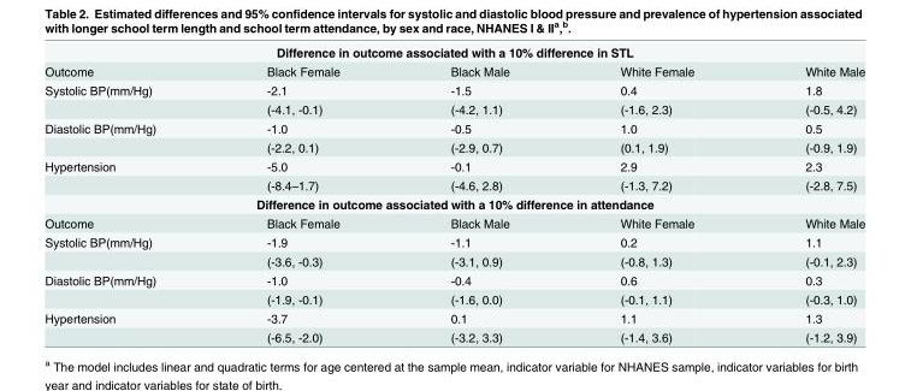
<table><tbody><tr><td colspan="5">Difference in outcome associated with a 10% difference in STL</td></tr><tr><td>Outcome</td><td>Black Female</td><td>Black Male</td><td>White Female</td><td>White Male</td></tr><tr><td rowspan="2">Systolic BP(mm/Hg)</td><td>-2.1</td><td>-1.5</td><td>0.4</td><td>1.8</td></tr><tr><td>(-4.1, -0.1)</td><td>(-4.2, 1.1)</td><td>(-1.6, 2.3)</td><td>(-0.5, 4.2)</td></tr><tr><td rowspan="2">Diastolic BP(mm/Hg)</td><td>-1.0</td><td>-0.5</td><td>1.0</td><td>0.5</td></tr><tr><td>(-2.2, 0.1)</td><td>(-2.9, 0.7)</td><td>(0.1, 1.9)</td><td>(-0.9, 1.9)</td></tr><tr><td rowspan="2">Hypertension</td><td>-5.0</td><td>-0.1</td><td>2.9</td><td>2.3</td></tr><tr><td>(-8.4–1.7)</td><td>(-4.6, 2.8)</td><td>(-1.3, 7.2)</td><td>(-2.8, 7.5)</td></tr><tr><td colspan="5">Difference in outcome associated with a 10% difference in attendance</td></tr><tr><td>Outcome</td><td>Black Female</td><td>Black Male</td><td>White Female</td><td>White Male</td></tr><tr><td rowspan="2">Systolic BP(mm/Hg)</td><td>-1.9</td><td>-1.1</td><td>0.2</td><td>1.1</td></tr><tr><td>(-3.6, -0.3)</td><td>(-3.1, 0.9)</td><td>(-0.8, 1.3)</td><td>(-0.1, 2.3)</td></tr><tr><td rowspan="2">Diastolic BP(mm/Hg)</td><td>-1.0</td><td>-0.4</td><td>0.6</td><td>0.3</td></tr><tr><td>(-1.9, -0.1)</td><td>(-1.6, 0.0)</td><td>(-0.1, 1.1)</td><td>(-0.3, 1.0)</td></tr><tr><td rowspan="2">Hypertension</td><td>-3.7</td><td>0.1</td><td>1.1</td><td>1.3</td></tr><tr><td>(-6.5, -2.0)</td><td>(-3.2, 3.3)</td><td>(-1.4, 3.6)</td><td>(-1.2, 3.9)</td></tr></tbody></table>